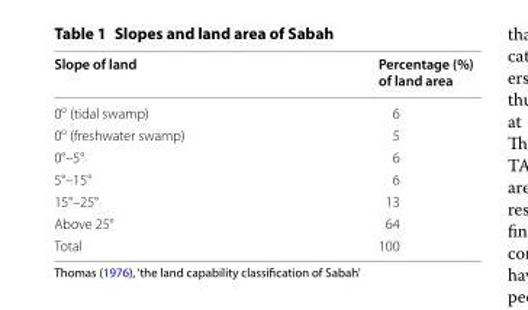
<table><thead><tr><td>Slope of land</td><td>Percentage (%) of land area</td></tr></thead><tbody><tr><td>0<sup>o</sup> (tidal swamp)</td><td>6</td></tr><tr><td>0<sup>o</sup> (freshwater swamp)</td><td>5</td></tr><tr><td>0°–5°</td><td>6</td></tr><tr><td>5°–15°</td><td>6</td></tr><tr><td>15°–25°</td><td>13</td></tr><tr><td>Above 25°</td><td>64</td></tr><tr><td>Total</td><td>100</td></tr></tbody></table>